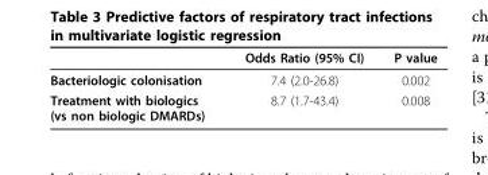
<table><thead><tr><td></td><td>Odds Ratio (95% CI)</td><td>P value</td></tr></thead><tbody><tr><td>Bacteriologic colonisation</td><td>7.4 (2.0-26.8)</td><td>0.002</td></tr><tr><td>Treatment with biologics (vs non biologic DMARDs)</td><td>8.7 (1.7-43.4)</td><td>0.008</td></tr></tbody></table>